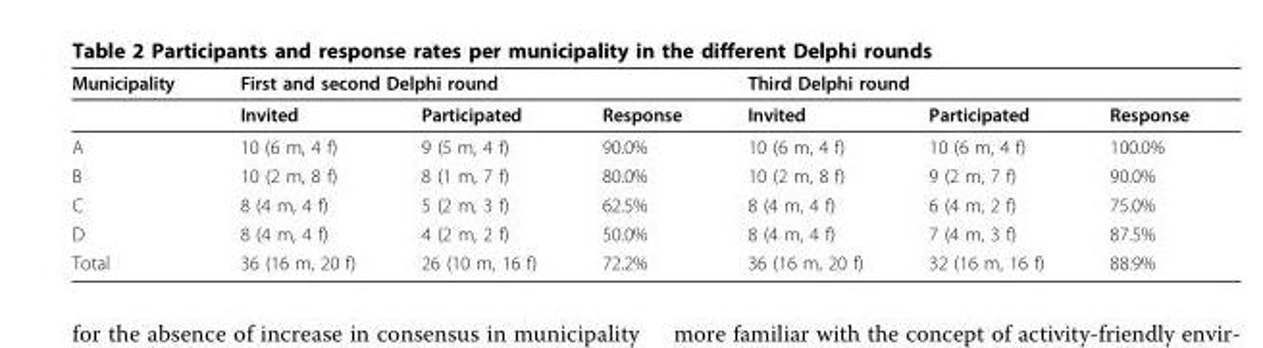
<table><thead><tr><td rowspan="2">Municipality</td><td colspan="3">First and second Delphi round</td><td colspan="3">Third Delphi round</td></tr><tr><td>Invited</td><td>Participated</td><td>Response</td><td>Invited</td><td>Participated</td><td>Response</td></tr></thead><tbody><tr><td>A</td><td>10 (6 m, 4 f)</td><td>9 (5 m, 4 f)</td><td>90.0%</td><td>10 (6 m, 4 f)</td><td>10 (6 m, 4 f)</td><td>100.0%</td></tr><tr><td>B</td><td>10 (2 m, 8 f)</td><td>8 (1 m, 7 f)</td><td>80.0%</td><td>10 (2 m, 8 f)</td><td>9 (2 m, 7 f)</td><td>90.0%</td></tr><tr><td>C</td><td>8 (4 m, 4 f)</td><td>5 (2 m, 3 f)</td><td>62.5%</td><td>8 (4 m, 4 f)</td><td>6 (4 m, 2 f)</td><td>75.0%</td></tr><tr><td>D</td><td>8 (4 m, 4 f)</td><td>4 (2 m, 2 f)</td><td>50.0%</td><td>8 (4 m, 4 f)</td><td>7 (4 m, 3 f)</td><td>87.5%</td></tr><tr><td>Total</td><td>36 (16 m, 20 f)</td><td>26 (10 m, 16 f)</td><td>72.2%</td><td>36 (16 m, 20 f)</td><td>32 (16 m, 16 f)</td><td>88.9%</td></tr></tbody></table>